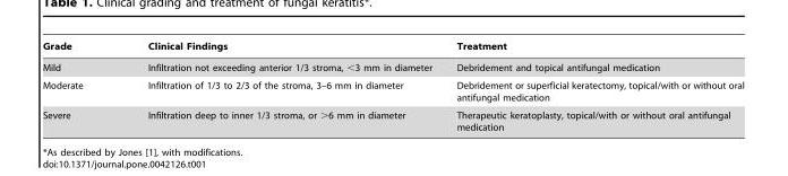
<table><thead><tr><td>Grade</td><td>Clinical Findings</td><td>Treatment</td></tr></thead><tbody><tr><td>Mild</td><td>Infiltration not exceeding anterior 1/3 stroma, &lt;3 mm in diameter</td><td>Debridement and topical antifungal medication</td></tr><tr><td>Moderate</td><td>Infiltration of 1/3 to 2/3 of the stroma, 3–6 mm in diameter</td><td>Debridement or superficial keratectomy, topical/with or without oral antifungal medication</td></tr><tr><td>Severe</td><td>Infiltration deep to inner 1/3 stroma, or &gt;6 mm in diameter</td><td>Therapeutic keratoplasty, topical/with or without oral antifungal medication</td></tr></tbody></table>